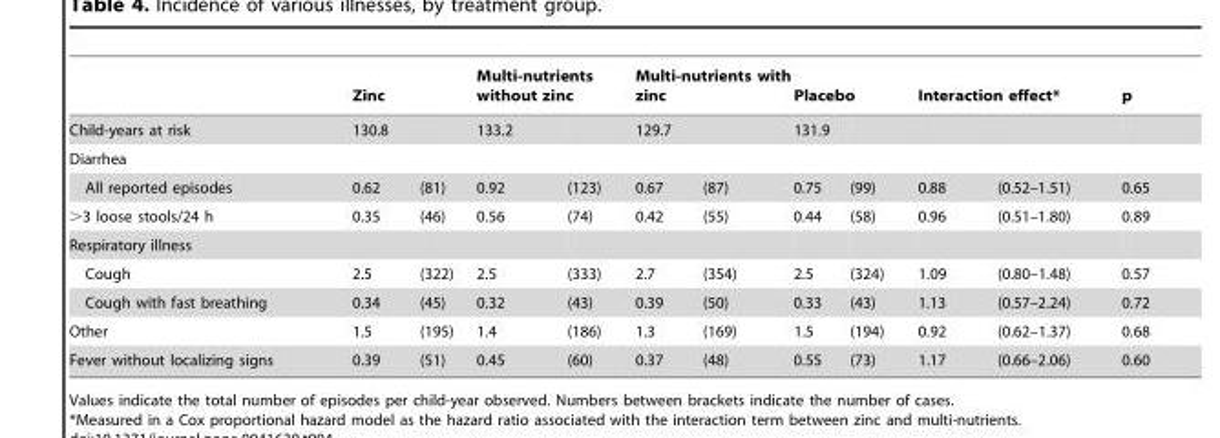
<table><thead><tr><td rowspan="2">Child-years at risk</td><td colspan="2">Zinc</td><td colspan="2">Multi-nutrients without zinc</td><td colspan="2">Multi-nutrients with zinc</td><td colspan="2">Placebo</td><td colspan="2">Interaction effect*</td><td rowspan="2">p</td></tr><tr><td>130.8</td><td></td><td>133.2</td><td></td><td>129.7</td><td></td><td>131.9</td><td></td><td></td><td></td></tr></thead><tbody><tr><td colspan="12">Diarrhea</td></tr><tr><td>All reported episodes</td><td>0.62</td><td>(81)</td><td>0.92</td><td>(123)</td><td>0.67</td><td>(87)</td><td>0.75</td><td>(99)</td><td>0.88</td><td>(0.52–1.51)</td><td>0.65</td></tr><tr><td>&gt;3 loose stools/24 h</td><td>0.35</td><td>(46)</td><td>0.56</td><td>(74)</td><td>0.42</td><td>(55)</td><td>0.44</td><td>(58)</td><td>0.96</td><td>(0.51–1.80)</td><td>0.89</td></tr><tr><td colspan="12">Respiratory illness</td></tr><tr><td>Cough</td><td>2.5</td><td>(322)</td><td>2.5</td><td>(333)</td><td>2.7</td><td>(354)</td><td>2.5</td><td>(324)</td><td>1.09</td><td>(0.80–1.48)</td><td>0.57</td></tr><tr><td>Cough with fast breathing</td><td>0.34</td><td>(45)</td><td>0.32</td><td>(43)</td><td>0.39</td><td>(50)</td><td>0.33</td><td>(43)</td><td>1.13</td><td>(0.57–2.24)</td><td>0.72</td></tr><tr><td>Other</td><td>1.5</td><td>(195)</td><td>1.4</td><td>(186)</td><td>1.3</td><td>(169)</td><td>1.5</td><td>(194)</td><td>0.92</td><td>(0.62–1.37)</td><td>0.68</td></tr><tr><td>Fever without localizing signs</td><td>0.39</td><td>(51)</td><td>0.45</td><td>(60)</td><td>0.37</td><td>(48)</td><td>0.55</td><td>(73)</td><td>1.17</td><td>(0.66–2.06)</td><td>0.60</td></tr></tbody></table>